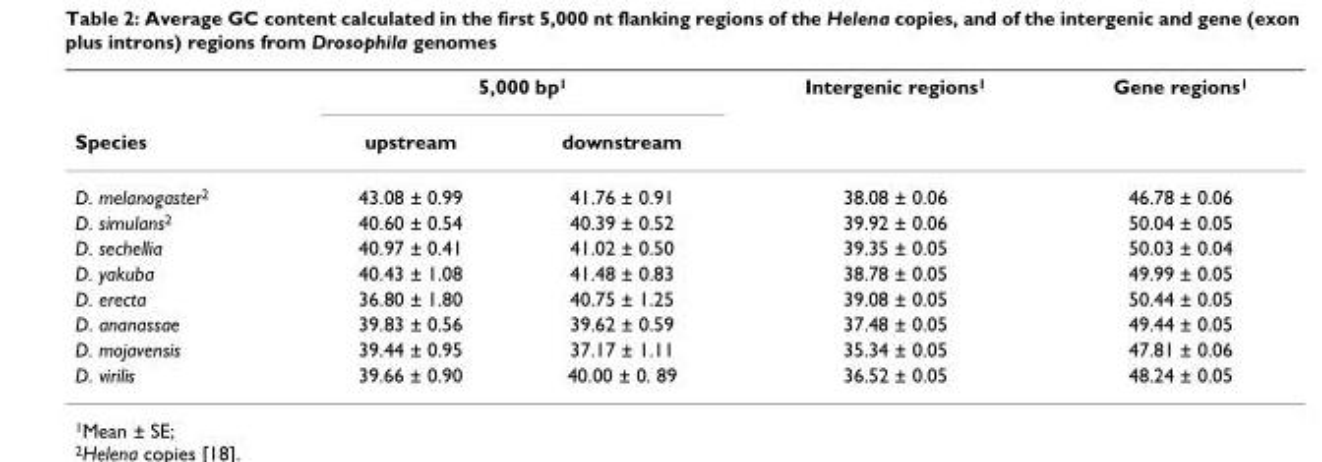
<table><thead><tr><td rowspan="2">Species</td><td colspan="2">5,000 bp<sup>1</sup></td><td rowspan="2">Intergenic regions<sup>1</sup></td><td rowspan="2">Gene regions<sup>1</sup></td></tr><tr><td>upstream</td><td>downstream</td></tr></thead><tbody><tr><td>D. melanogaster<sup>2</sup></td><td>43.08 ± 0.99</td><td>41.76 ± 0.91</td><td>38.08 ± 0.06</td><td>46.78 ± 0.06</td></tr><tr><td>D. simulans<sup>2</sup></td><td>40.60 ± 0.54</td><td>40.39 ± 0.52</td><td>39.92 ± 0.06</td><td>50.04 ± 0.05</td></tr><tr><td>D. sechellia</td><td>40.97 ± 0.41</td><td>41.02 ± 0.50</td><td>39.35 ± 0.05</td><td>50.03 ± 0.04</td></tr><tr><td>D. yakuba</td><td>40.43 ± 1.08</td><td>41.48 ± 0.83</td><td>38.78 ± 0.05</td><td>49.99 ± 0.05</td></tr><tr><td>D. erecta</td><td>36.80 ± 1.80</td><td>40.75 ± 1.25</td><td>39.08 ± 0.05</td><td>50.44 ± 0.05</td></tr><tr><td>D. ananassae</td><td>39.83 ± 0.56</td><td>39.62 ± 0.59</td><td>37.48 ± 0.05</td><td>49.44 ± 0.05</td></tr><tr><td>D. mojavensis</td><td>39.44 ± 0.95</td><td>37.17 ± 1.11</td><td>35.34 ± 0.05</td><td>47.81 ± 0.06</td></tr><tr><td>D. virilis</td><td>39.66 ± 0.90</td><td>40.00 ± 0. 89</td><td>36.52 ± 0.05</td><td>48.24 ± 0.05</td></tr></tbody></table>